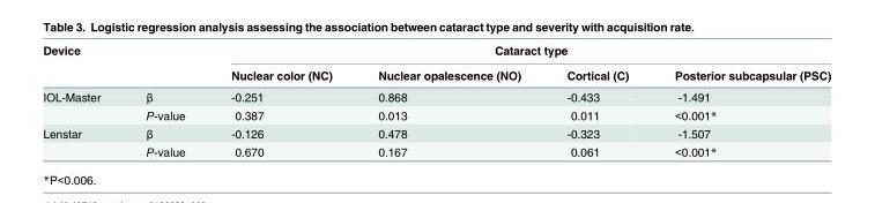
<table><thead><tr><td rowspan="2">Device</td><td rowspan="2"></td><td colspan="4">Cataract type</td></tr><tr><td>Nuclear color (NC)</td><td>Nuclear opalescence (NO)</td><td>Cortical (C)</td><td>Posterior subcapsular (PSC)</td></tr></thead><tbody><tr><td rowspan="2">IOL-Master</td><td>β</td><td>-0.251</td><td>0.868</td><td>-0.433</td><td>-1.491</td></tr><tr><td>P-value</td><td>0.387</td><td>0.013</td><td>0.011</td><td>&lt;0.001*</td></tr><tr><td rowspan="2">Lenstar</td><td>β</td><td>-0.126</td><td>0.478</td><td>-0.323</td><td>-1.507</td></tr><tr><td>P-value</td><td>0.670</td><td>0.167</td><td>0.061</td><td>&lt;0.001*</td></tr></tbody></table>